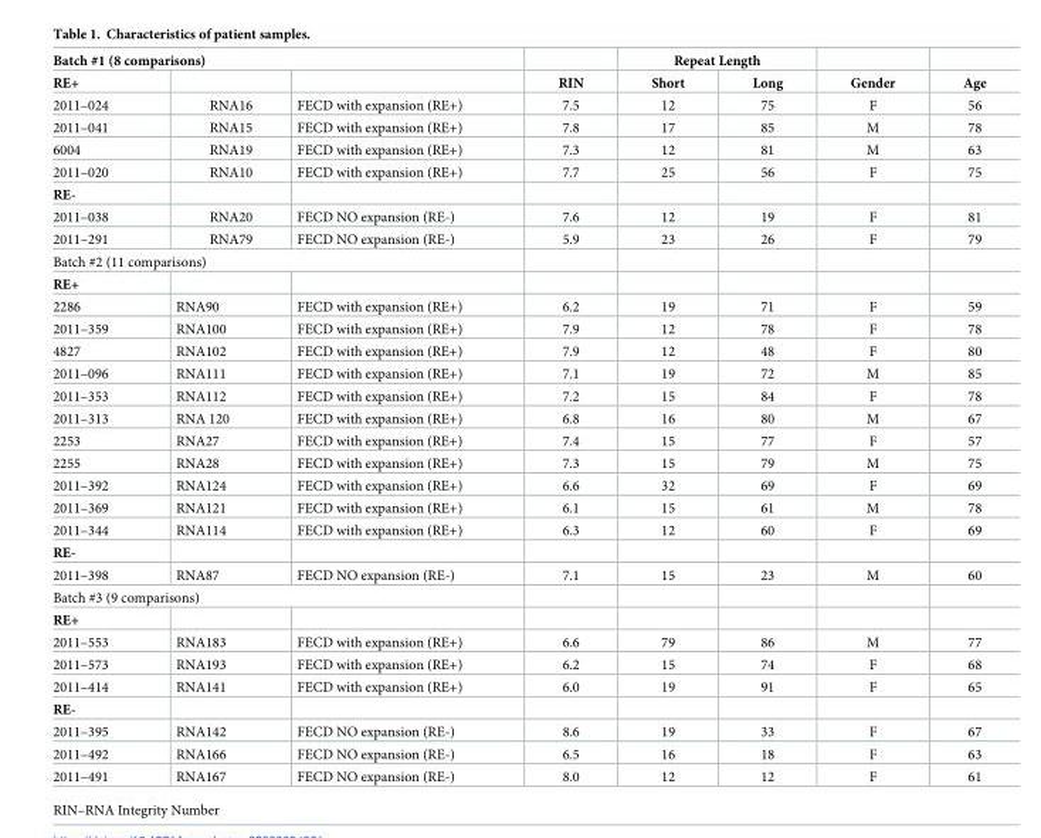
<table><thead><tr><td colspan="3">Batch #1 (8 comparisons)</td><td rowspan="2">RIN</td><td colspan="2">Repeat Length</td><td rowspan="2">Gender</td><td rowspan="2">Age</td></tr><tr><td>RE+</td><td></td><td></td><td>Short</td><td>Long</td></tr></thead><tbody><tr><td>2011–024</td><td>RNA16</td><td>FECD with expansion (RE+)</td><td>7.5</td><td>12</td><td>75</td><td>F</td><td>56</td></tr><tr><td>2011–041</td><td>RNA15</td><td>FECD with expansion (RE+)</td><td>7.8</td><td>17</td><td>85</td><td>M</td><td>78</td></tr><tr><td>6004</td><td>RNA19</td><td>FECD with expansion (RE+)</td><td>7.3</td><td>12</td><td>81</td><td>M</td><td>63</td></tr><tr><td>2011–020</td><td>RNA10</td><td>FECD with expansion (RE+)</td><td>7.7</td><td>25</td><td>56</td><td>F</td><td>75</td></tr><tr><td colspan="8">RE-</td></tr><tr><td>2011–038</td><td>RNA20</td><td>FECD NO expansion (RE-)</td><td>7.6</td><td>12</td><td>19</td><td>F</td><td>81</td></tr><tr><td>2011–291</td><td>RNA79</td><td>FECD NO expansion (RE-)</td><td>5.9</td><td>23</td><td>26</td><td>F</td><td>79</td></tr><tr><td colspan="8">Batch #2 (11 comparisons)</td></tr><tr><td colspan="8">RE+</td></tr><tr><td>2286</td><td>RNA90</td><td>FECD with expansion (RE+)</td><td>6.2</td><td>19</td><td>71</td><td>F</td><td>59</td></tr><tr><td>2011–359</td><td>RNA100</td><td>FECD with expansion (RE+)</td><td>7.9</td><td>12</td><td>78</td><td>F</td><td>78</td></tr><tr><td>4827</td><td>RNA102</td><td>FECD with expansion (RE+)</td><td>7.9</td><td>12</td><td>48</td><td>F</td><td>80</td></tr><tr><td>2011–096</td><td>RNA111</td><td>FECD with expansion (RE+)</td><td>7.1</td><td>19</td><td>72</td><td>M</td><td>85</td></tr><tr><td>2011–353</td><td>RNA112</td><td>FECD with expansion (RE+)</td><td>7.2</td><td>15</td><td>84</td><td>F</td><td>78</td></tr><tr><td>2011–313</td><td>RNA 120</td><td>FECD with expansion (RE+)</td><td>6.8</td><td>16</td><td>80</td><td>M</td><td>67</td></tr><tr><td>2253</td><td>RNA27</td><td>FECD with expansion (RE+)</td><td>7.4</td><td>15</td><td>77</td><td>F</td><td>57</td></tr><tr><td>2255</td><td>RNA28</td><td>FECD with expansion (RE+)</td><td>7.3</td><td>15</td><td>79</td><td>M</td><td>75</td></tr><tr><td>2011–392</td><td>RNA124</td><td>FECD with expansion (RE+)</td><td>6.6</td><td>32</td><td>69</td><td>F</td><td>69</td></tr><tr><td>2011–369</td><td>RNA121</td><td>FECD with expansion (RE+)</td><td>6.1</td><td>15</td><td>61</td><td>M</td><td>78</td></tr><tr><td>2011–344</td><td>RNA114</td><td>FECD with expansion (RE+)</td><td>6.3</td><td>12</td><td>60</td><td>F</td><td>69</td></tr><tr><td colspan="8">RE-</td></tr><tr><td>2011–398</td><td>RNA87</td><td>FECD NO expansion (RE-)</td><td>7.1</td><td>15</td><td>23</td><td>M</td><td>60</td></tr><tr><td colspan="8">Batch #3 (9 comparisons)</td></tr><tr><td colspan="8">RE+</td></tr><tr><td>2011–553</td><td>RNA183</td><td>FECD with expansion (RE+)</td><td>6.6</td><td>79</td><td>86</td><td>M</td><td>77</td></tr><tr><td>2011–573</td><td>RNA193</td><td>FECD with expansion (RE+)</td><td>6.2</td><td>15</td><td>74</td><td>F</td><td>68</td></tr><tr><td>2011–414</td><td>RNA141</td><td>FECD with expansion (RE+)</td><td>6.0</td><td>19</td><td>91</td><td>F</td><td>65</td></tr><tr><td colspan="8">RE-</td></tr><tr><td>2011–395</td><td>RNA142</td><td>FECD NO expansion (RE-)</td><td>8.6</td><td>19</td><td>33</td><td>F</td><td>67</td></tr><tr><td>2011–492</td><td>RNA166</td><td>FECD NO expansion (RE-)</td><td>6.5</td><td>16</td><td>18</td><td>F</td><td>63</td></tr><tr><td>2011–491</td><td>RNA167</td><td>FECD NO expansion (RE-)</td><td>8.0</td><td>12</td><td>12</td><td>F</td><td>61</td></tr></tbody></table>